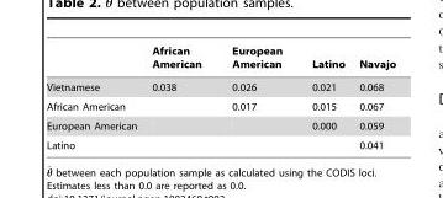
<table><thead><tr><td></td><td>African American</td><td>European American</td><td>Latino</td><td>Navajo</td></tr></thead><tbody><tr><td>Vietnamese</td><td>0.038</td><td>0.026</td><td>0.021</td><td>0.068</td></tr><tr><td>African American</td><td></td><td>0.017</td><td>0.015</td><td>0.067</td></tr><tr><td>European American</td><td></td><td></td><td>0.000</td><td>0.059</td></tr><tr><td>Latino</td><td></td><td></td><td></td><td>0.041</td></tr></tbody></table>